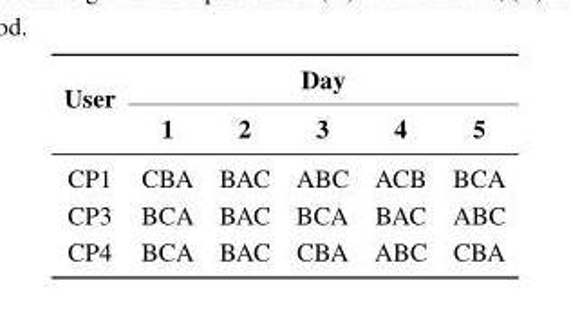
<table><thead><tr><td rowspan="2">User</td><td colspan="5">Day</td></tr><tr><td>1</td><td>2</td><td>3</td><td>4</td><td>5</td></tr></thead><tbody><tr><td>CP1</td><td>CBA</td><td>BAC</td><td>ABC</td><td>ACB</td><td>BCA</td></tr><tr><td>CP3</td><td>BCA</td><td>BAC</td><td>BCA</td><td>BAC</td><td>ABC</td></tr><tr><td>CP4</td><td>BCA</td><td>BAC</td><td>CBA</td><td>ABC</td><td>CBA</td></tr></tbody></table>